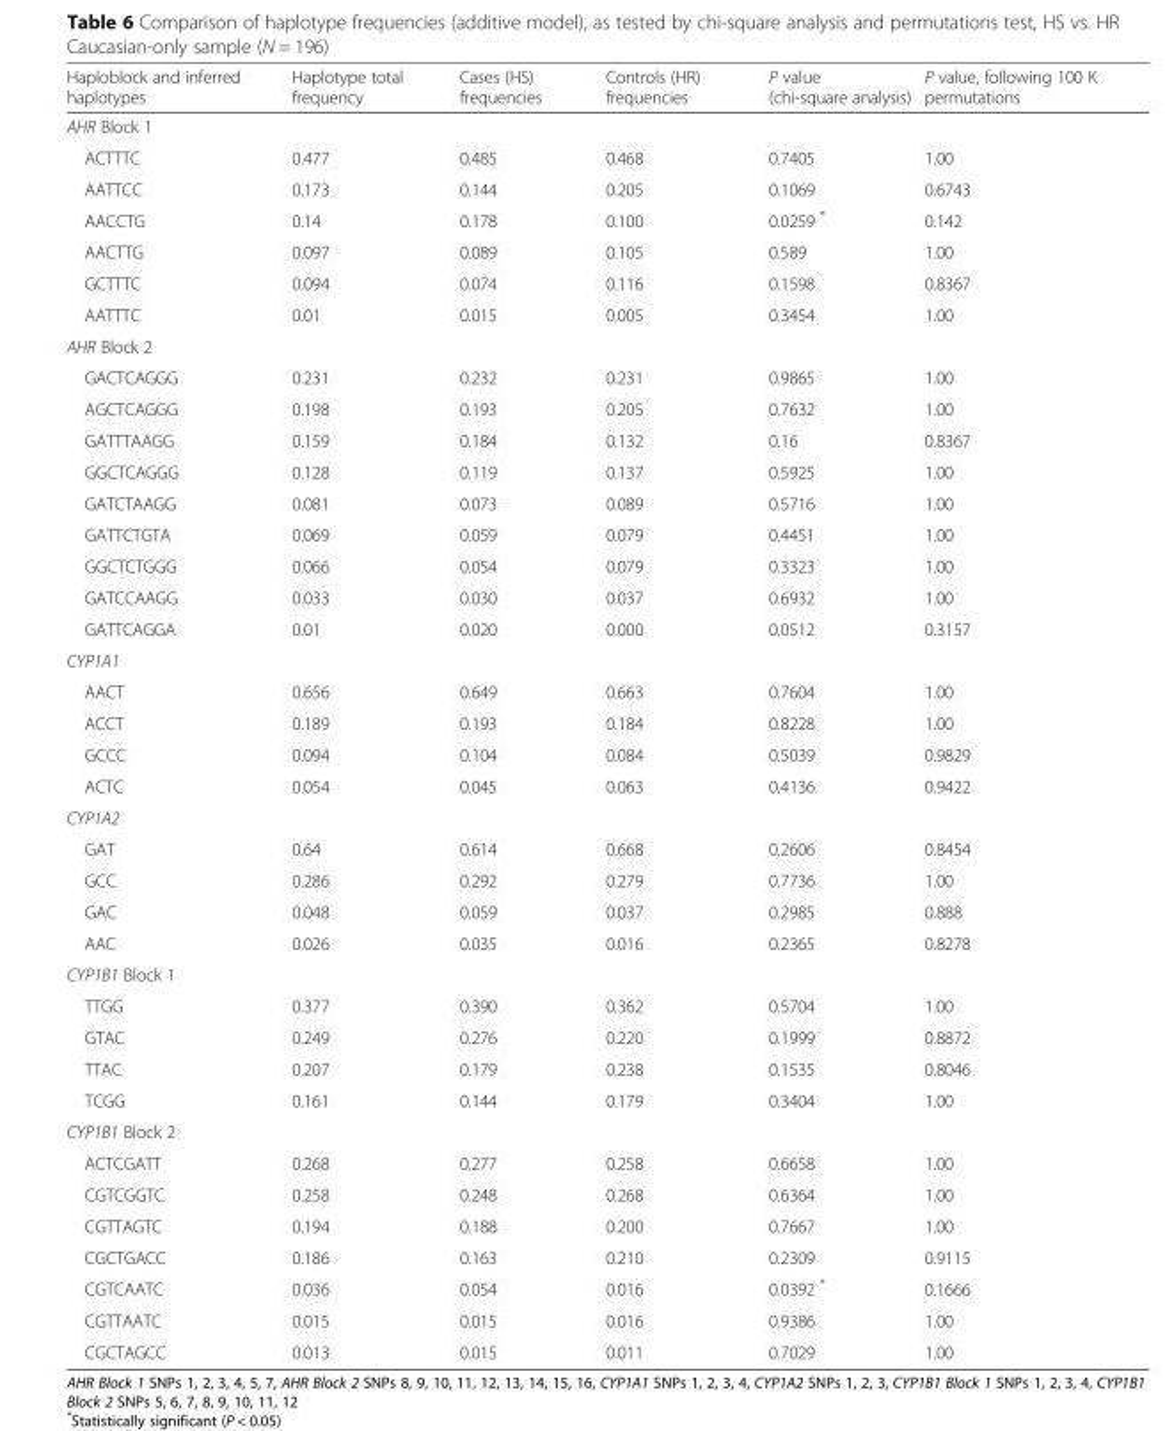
<table><thead><tr><td>Haploblock and inferred haplotypes</td><td>Haplotype total frequency</td><td>Cases (HS) frequencies</td><td>Controls (HR) frequencies</td><td>P value (chi-square analysis)</td><td>P value, following 100 K permutations</td></tr></thead><tbody><tr><td colspan="6">AHR Block 1</td></tr><tr><td>ACTTTC</td><td>0.477</td><td>0.485</td><td>0.468</td><td>0.7405</td><td>1.00</td></tr><tr><td>AATTCC</td><td>0.173</td><td>0.144</td><td>0.205</td><td>0.1069</td><td>0.6743</td></tr><tr><td>AACCTG</td><td>0.14</td><td>0.178</td><td>0.100</td><td>0.0259 *</td><td>0.142</td></tr><tr><td>AACTTG</td><td>0.097</td><td>0.089</td><td>0.105</td><td>0.589</td><td>1.00</td></tr><tr><td>GCTTTC</td><td>0.094</td><td>0.074</td><td>0.116</td><td>0.1598</td><td>0.8367</td></tr><tr><td>AATTTC</td><td>0.01</td><td>0.015</td><td>0.005</td><td>0.3454</td><td>1.00</td></tr><tr><td colspan="6">AHR Block 2</td></tr><tr><td>GACTCAGGG</td><td>0.231</td><td>0.232</td><td>0.231</td><td>0.9865</td><td>1.00</td></tr><tr><td>AGCTCAGGG</td><td>0.198</td><td>0.193</td><td>0.205</td><td>0.7632</td><td>1.00</td></tr><tr><td>GATTTAAGG</td><td>0.159</td><td>0.184</td><td>0.132</td><td>0.16</td><td>0.8367</td></tr><tr><td>GGCTCAGGG</td><td>0.128</td><td>0.119</td><td>0.137</td><td>0.5925</td><td>1.00</td></tr><tr><td>GATCTAAGG</td><td>0.081</td><td>0.073</td><td>0.089</td><td>0.5716</td><td>1.00</td></tr><tr><td>GATTCTGTA</td><td>0.069</td><td>0.059</td><td>0.079</td><td>0.4451</td><td>1.00</td></tr><tr><td>GGCTCTGGG</td><td>0.066</td><td>0.054</td><td>0.079</td><td>0.3323</td><td>1.00</td></tr><tr><td>GATCCAAGG</td><td>0.033</td><td>0.030</td><td>0.037</td><td>0.6932</td><td>1.00</td></tr><tr><td>GATTCAGGA</td><td>0.01</td><td>0.020</td><td>0.000</td><td>0.0512</td><td>0.3157</td></tr><tr><td colspan="6">CYP1A1</td></tr><tr><td>AACT</td><td>0.656</td><td>0.649</td><td>0.663</td><td>0.7604</td><td>1.00</td></tr><tr><td>ACCT</td><td>0.189</td><td>0.193</td><td>0.184</td><td>0.8228</td><td>1.00</td></tr><tr><td>GCCC</td><td>0.094</td><td>0.104</td><td>0.084</td><td>0.5039</td><td>0.9829</td></tr><tr><td>ACTC</td><td>0.054</td><td>0.045</td><td>0.063</td><td>0.4136</td><td>0.9422</td></tr><tr><td colspan="6">CYP1A2</td></tr><tr><td>GAT</td><td>0.64</td><td>0.614</td><td>0.668</td><td>0.2606</td><td>0.8454</td></tr><tr><td>GCC</td><td>0.286</td><td>0.292</td><td>0.279</td><td>0.7736</td><td>1.00</td></tr><tr><td>GAC</td><td>0.048</td><td>0.059</td><td>0.037</td><td>0.2985</td><td>0.888</td></tr><tr><td>AAC</td><td>0.026</td><td>0.035</td><td>0.016</td><td>0.2365</td><td>0.8278</td></tr><tr><td colspan="6">CYP1B1 Block 1</td></tr><tr><td>TTGG</td><td>0.377</td><td>0.390</td><td>0.362</td><td>0.5704</td><td>1.00</td></tr><tr><td>GTAC</td><td>0.249</td><td>0.276</td><td>0.220</td><td>0.1999</td><td>0.8872</td></tr><tr><td>TTAC</td><td>0.207</td><td>0.179</td><td>0.238</td><td>0.1535</td><td>0.8046</td></tr><tr><td>TCGG</td><td>0.161</td><td>0.144</td><td>0.179</td><td>0.3404</td><td>1.00</td></tr><tr><td colspan="6">CYP1B1 Block 2</td></tr><tr><td>ACTCGATT</td><td>0.268</td><td>0.277</td><td>0.258</td><td>0.6658</td><td>1.00</td></tr><tr><td>CGTCGGTC</td><td>0.258</td><td>0.248</td><td>0.268</td><td>0.6364</td><td>1.00</td></tr><tr><td>CGTTAGTC</td><td>0.194</td><td>0.188</td><td>0.200</td><td>0.7667</td><td>1.00</td></tr><tr><td>CGCTGACC</td><td>0.186</td><td>0.163</td><td>0.210</td><td>0.2309</td><td>0.9115</td></tr><tr><td>CGTCAATC</td><td>0.036</td><td>0.054</td><td>0.016</td><td>0.0392 *</td><td>0.1666</td></tr><tr><td>CGTTAATC</td><td>0.015</td><td>0.015</td><td>0.016</td><td>0.9386</td><td>1.00</td></tr><tr><td>CGCTAGCC</td><td>0.013</td><td>0.015</td><td>0.011</td><td>0.7029</td><td>1.00</td></tr></tbody></table>